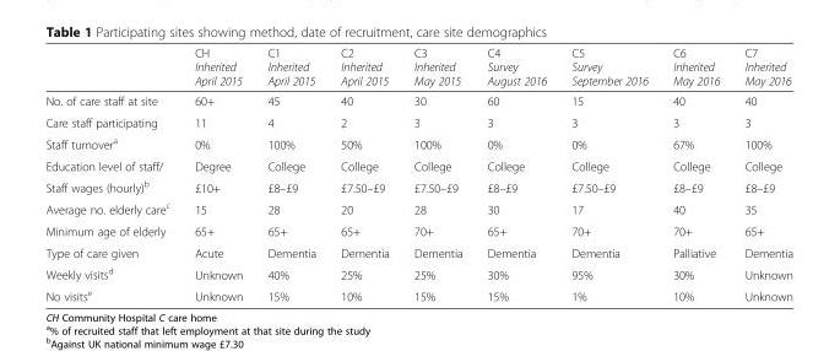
<table><thead><tr><td></td><td>CH Inherited April 2015</td><td>C1 Inherited April 2015</td><td>C2 Inherited April 2015</td><td>C3 Inherited May 2015</td><td>C4 Survey August 2016</td><td>C5 Survey September 2016</td><td>C6 Inherited May 2016</td><td>C7 Inherited May 2016</td></tr></thead><tbody><tr><td>No. of care staff at site</td><td>60+</td><td>45</td><td>40</td><td>30</td><td>60</td><td>15</td><td>40</td><td>40</td></tr><tr><td>Care staff participating</td><td>11</td><td>4</td><td>2</td><td>3</td><td>3</td><td>3</td><td>3</td><td>3</td></tr><tr><td>Staff turnover<sup>a</sup></td><td>0%</td><td>100%</td><td>50%</td><td>100%</td><td>0%</td><td>0%</td><td>67%</td><td>100%</td></tr><tr><td>Education level of staff/</td><td>Degree</td><td>College</td><td>College</td><td>College</td><td>College</td><td>College</td><td>College</td><td>College</td></tr><tr><td>Staff wages (hourly)<sup>b</sup></td><td>£10+</td><td>£8–£9</td><td>£7.50–£9</td><td>£7.50–£9</td><td>£8–£9</td><td>£7.50–£9</td><td>£8–£9</td><td>£8–£9</td></tr><tr><td>Average no. elderly care<sup>c</sup></td><td>15</td><td>28</td><td>20</td><td>28</td><td>30</td><td>17</td><td>40</td><td>35</td></tr><tr><td>Minimum age of elderly</td><td>65+</td><td>65+</td><td>65+</td><td>70+</td><td>65+</td><td>70+</td><td>70+</td><td>65+</td></tr><tr><td>Type of care given</td><td>Acute</td><td>Dementia</td><td>Dementia</td><td>Dementia</td><td>Dementia</td><td>Dementia</td><td>Palliative</td><td>Dementia</td></tr><tr><td>Weekly visits<sup>d</sup></td><td>Unknown</td><td>40%</td><td>25%</td><td>25%</td><td>30%</td><td>95%</td><td>30%</td><td>Unknown</td></tr><tr><td>No visits<sup>e</sup></td><td>Unknown</td><td>15%</td><td>10%</td><td>15%</td><td>15%</td><td>1%</td><td>10%</td><td>Unknown</td></tr></tbody></table>